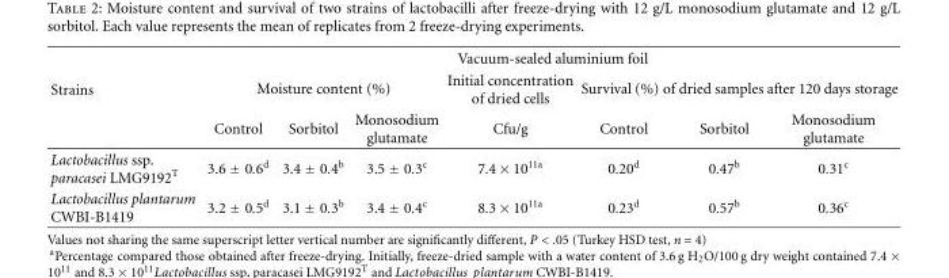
<table><thead><tr><td rowspan="3">Strains</td><td colspan="7">Vacuum-sealed aluminium foil</td></tr><tr><td colspan="3">Moisture content (%)</td><td rowspan="2">Initial concentration of dried cells Cfu/g</td><td colspan="3">Survival (%) of dried samples after 120 days storage</td></tr><tr><td>Control</td><td>Sorbitol</td><td>Monosodium glutamate</td><td>Control</td><td>Sorbitol</td><td>Monosodium glutamate</td></tr></thead><tbody><tr><td>Lactobacillus ssp. paracasei LMG9192<sup>T</sup></td><td>3.6 ± 0.6<sup>d</sup></td><td>3.4 ± 0.4<sup>b</sup></td><td>3.5 ± 0.3<sup>c</sup></td><td>7.4 × 10<sup>11a</sup></td><td>0.20<sup>d</sup></td><td>0.47<sup>b</sup></td><td>0.31<sup>c</sup></td></tr><tr><td>Lactobacillus plantarum CWBI-B1419</td><td>3.2 ± 0.5<sup>d</sup></td><td>3.1 ± 0.3<sup>b</sup></td><td>3.4 ± 0.4<sup>c</sup></td><td>8.3 × 10<sup>11a</sup></td><td>0.23<sup>d</sup></td><td>0.57<sup>b</sup></td><td>0.36<sup>c</sup></td></tr></tbody></table>